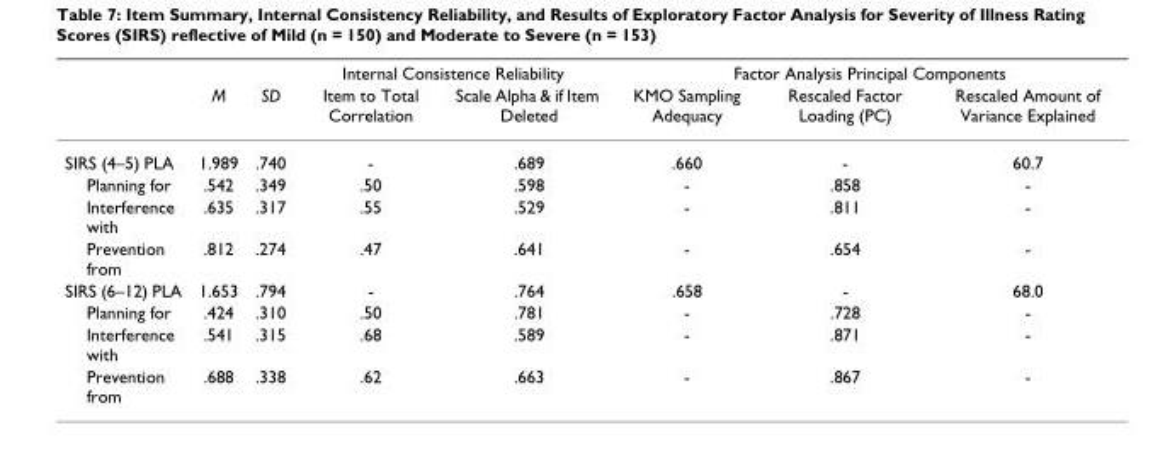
<table><thead><tr><td rowspan="2"></td><td rowspan="2">M</td><td rowspan="2">SD</td><td colspan="2">Internal Consistence Reliability</td><td colspan="3">Factor Analysis Principal Components</td></tr><tr><td>Item to Total Correlation</td><td>Scale Alpha &amp; if Item Deleted</td><td>KMO Sampling Adequacy</td><td>Rescaled Factor Loading (PC)</td><td>Rescaled Amount of Variance Explained</td></tr></thead><tbody><tr><td>SIRS (4–5) PLA</td><td>1.989</td><td>.740</td><td>-</td><td>.689</td><td>.660</td><td>-</td><td>60.7</td></tr><tr><td>Planning for</td><td>.542</td><td>.349</td><td>.50</td><td>.598</td><td>-</td><td>.858</td><td>-</td></tr><tr><td>Interference with</td><td>.635</td><td>.317</td><td>.55</td><td>.529</td><td>-</td><td>.811</td><td>-</td></tr><tr><td>Prevention from</td><td>.812</td><td>.274</td><td>.47</td><td>.641</td><td>-</td><td>.654</td><td>-</td></tr><tr><td>SIRS (6–12) PLA</td><td>1.653</td><td>.794</td><td>-</td><td>.764</td><td>.658</td><td>-</td><td>68.0</td></tr><tr><td>Planning for</td><td>.424</td><td>.310</td><td>.50</td><td>.781</td><td>-</td><td>.728</td><td>-</td></tr><tr><td>Interference with</td><td>.541</td><td>.315</td><td>.68</td><td>.589</td><td>-</td><td>.871</td><td>-</td></tr><tr><td>Prevention from</td><td>.688</td><td>.338</td><td>.62</td><td>.663</td><td>-</td><td>.867</td><td>-</td></tr></tbody></table>